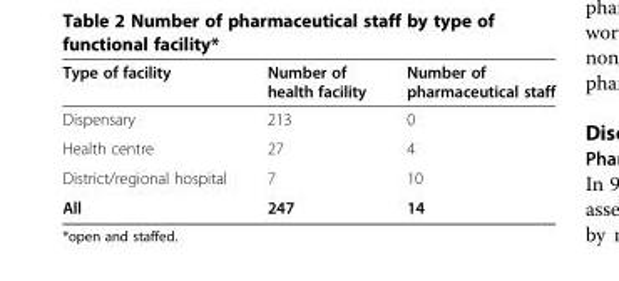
<table><thead><tr><td>Type of facility</td><td>Number of health facility</td><td>Number of pharmaceutical staff</td></tr></thead><tbody><tr><td>Dispensary</td><td>213</td><td>0</td></tr><tr><td>Health centre</td><td>27</td><td>4</td></tr><tr><td>District/regional hospital</td><td>7</td><td>10</td></tr><tr><td>All</td><td>247</td><td>14</td></tr></tbody></table>